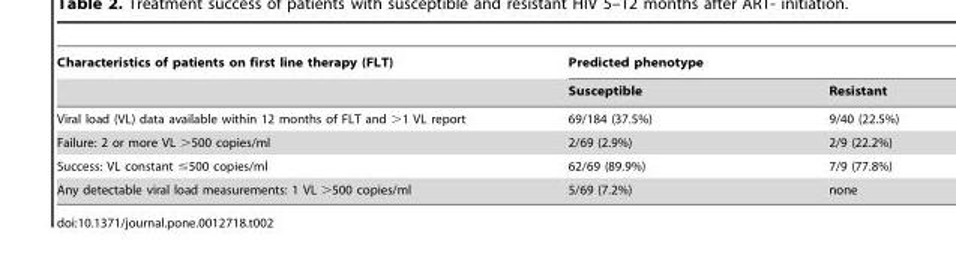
<table><thead><tr><td rowspan="2">Characteristics of patients on first line therapy (FLT)</td><td colspan="2">Predicted phenotype</td></tr><tr><td>Susceptible</td><td>Resistant</td></tr></thead><tbody><tr><td>Viral load (VL) data available within 12 months of FLT and &gt;1 VL report</td><td>69/184 (37.5%)</td><td>9/40 (22.5%)</td></tr><tr><td>Failure: 2 or more VL &gt;500 copies/ml</td><td>2/69 (2.9%)</td><td>2/9 (22.2%)</td></tr><tr><td>Success: VL constant ≤500 copies/ml</td><td>62/69 (89.9%)</td><td>7/9 (77.8%)</td></tr><tr><td>Any detectable viral load measurements: 1 VL &gt;500 copies/ml</td><td>5/69 (7.2%)</td><td>none</td></tr></tbody></table>